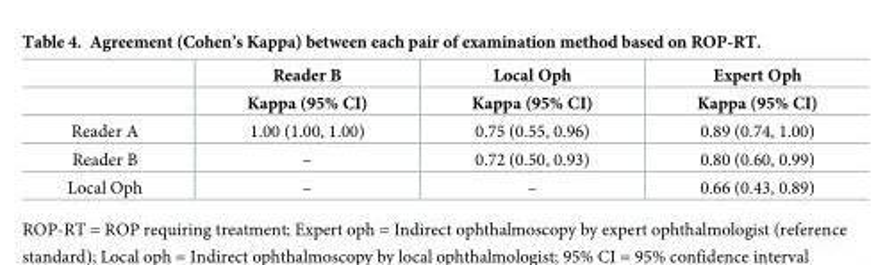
<table><thead><tr><td rowspan="2"></td><td rowspan="2">Reader B Kappa (95% CI)</td><td rowspan="2">Local Oph Kappa (95% CI)</td><td rowspan="2">Expert Oph Kappa (95% CI)</td></tr><tr></tr></thead><tbody><tr><td>Reader A</td><td>1.00 (1.00, 1.00)</td><td>0.75 (0.55, 0.96)</td><td>0.89 (0.74, 1.00)</td></tr><tr><td>Reader B</td><td>–</td><td>0.72 (0.50, 0.93)</td><td>0.80 (0.60, 0.99)</td></tr><tr><td>Local Oph</td><td>–</td><td>–</td><td>0.66 (0.43, 0.89)</td></tr></tbody></table>